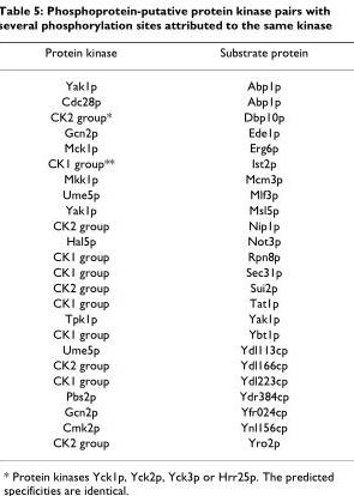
<table><thead><tr><td>Protein kinase</td><td>Substrate protein</td></tr></thead><tbody><tr><td>Yak1p</td><td>Abp1p</td></tr><tr><td>Cdc28p</td><td>Abp1p</td></tr><tr><td>CK2 group*</td><td>Dbp10p</td></tr><tr><td>Gcn2p</td><td>Ede1p</td></tr><tr><td>Mck1p</td><td>Erg6p</td></tr><tr><td>CK1 group**</td><td>Ist2p</td></tr><tr><td>Mkk1p</td><td>Mcm3p</td></tr><tr><td>Ume5p</td><td>Mlf3p</td></tr><tr><td>Yak1p</td><td>Msl5p</td></tr><tr><td>CK2 group</td><td>Nip1p</td></tr><tr><td>Hal5p</td><td>Not3p</td></tr><tr><td>CK1 group</td><td>Rpn8p</td></tr><tr><td>CK1 group</td><td>Sec31p</td></tr><tr><td>CK2 group</td><td>Sui2p</td></tr><tr><td>CK1 group</td><td>Tat1p</td></tr><tr><td>Tpk1p</td><td>Yak1p</td></tr><tr><td>CK1 group</td><td>Ybt1p</td></tr><tr><td>Ume5p</td><td>Ydl113cp</td></tr><tr><td>CK2 group</td><td>Ydl166cp</td></tr><tr><td>CK1 group</td><td>Ydl223cp</td></tr><tr><td>Pbs2p</td><td>Ydr384cp</td></tr><tr><td>Gcn2p</td><td>Yfr024cp</td></tr><tr><td>Cmk2p</td><td>Ynl156cp</td></tr><tr><td>CK2 group</td><td>Yro2p</td></tr></tbody></table>